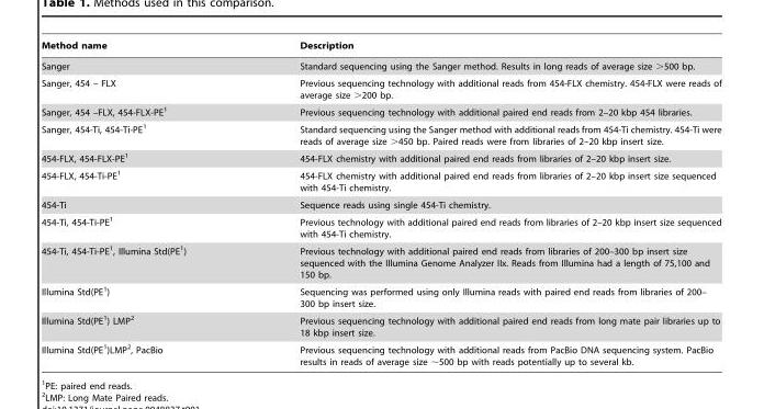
<table><thead><tr><td>Method name</td><td>Description</td></tr></thead><tbody><tr><td>Sanger</td><td>Standard sequencing using the Sanger method. Results in long reads of average size &gt;500 bp.</td></tr><tr><td>Sanger, 454 – FLX</td><td>Previous sequencing technology with additional reads from 454-FLX chemistry. 454-FLX were reads of average size &gt;200 bp.</td></tr><tr><td>Sanger, 454 –FLX, 454-FLX-PE<sup>1</sup></td><td>Previous sequencing technology with additional paired end reads from 2–20 kbp 454 libraries.</td></tr><tr><td>Sanger, 454-Ti, 454-Ti-PE<sup>1</sup></td><td>Standard sequencing using the Sanger method with additional reads from 454-Ti chemistry. 454-Ti were reads of average size &gt;450 bp. Paired reads were from libraries of 2–20 kbp insert size.</td></tr><tr><td>454-FLX, 454-FLX-PE<sup>1</sup></td><td>454-FLX chemistry with additional paired end reads from libraries of 2–20 kbp insert size.</td></tr><tr><td>454-FLX, 454-Ti-PE<sup>1</sup></td><td>454-FLX chemistry with additional paired end reads from libraries of 2–20 kbp insert size sequenced with 454-Ti chemistry.</td></tr><tr><td>454-Ti</td><td>Sequence reads using single 454-Ti chemistry.</td></tr><tr><td>454-Ti, 454-Ti-PE<sup>1</sup></td><td>Previous technology with additional paired end reads from libraries of 2–20 kbp insert size sequenced with 454-Ti chemistry.</td></tr><tr><td>454-Ti, 454-Ti-PE<sup>1</sup>, Illumina Std(PE<sup>1</sup>)</td><td>Previous technology with additional paired end reads from libraries of 200–300 bp insert size sequenced with the Illumina Genome Analyzer IIx. Reads from Illumina had a length of 75,100 and 150 bp.</td></tr><tr><td>Illumina Std(PE<sup>1</sup>)</td><td>Sequencing was performed using only Illumina reads with paired end reads from libraries of 200– 300 bp insert size.</td></tr><tr><td>Illumina Std(PE<sup>1</sup>) LMP<sup>2</sup></td><td>Previous sequencing technology with additional paired end reads from long mate pair libraries up to 18 kbp insert size.</td></tr><tr><td>Illumina Std(PE<sup>1</sup>)LMP<sup>2</sup>, PacBio</td><td>Previous sequencing technology with additional reads from PacBio DNA sequencing system. PacBio results in reads of average size ∼500 bp with reads potentially up to several kb.</td></tr></tbody></table>